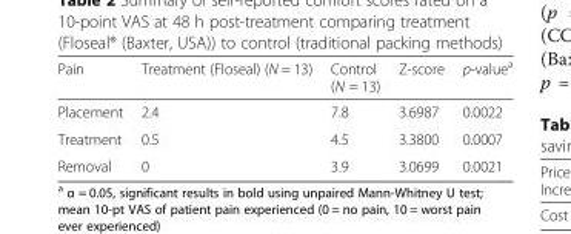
<table><thead><tr><td>Pain</td><td>Treatment (Floseal) (N = 13)</td><td>Control (N = 13)</td><td>Z-score</td><td>p-value<sup>a</sup></td></tr></thead><tbody><tr><td>Placement</td><td>2.4</td><td>7.8</td><td>3.6987</td><td>0.0022</td></tr><tr><td>Treatment</td><td>0.5</td><td>4.5</td><td>3.3800</td><td>0.0007</td></tr><tr><td>Removal</td><td>0</td><td>3.9</td><td>3.0699</td><td>0.0021</td></tr></tbody></table>